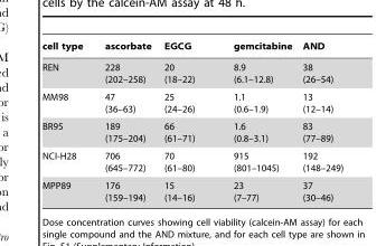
<table><thead><tr><td>cell type</td><td>ascorbate</td><td>EGCG</td><td>gemcitabine</td><td>AND</td></tr></thead><tbody><tr><td>REN</td><td>228 (202–258)</td><td>20 (18–22)</td><td>8.9 (6.1–12.8)</td><td>38 (26–54)</td></tr><tr><td>MM98</td><td>47 (36–63)</td><td>25 (24–26)</td><td>1.1 (0.6–1.9)</td><td>13 (12–14)</td></tr><tr><td>BR95</td><td>189 (175–204)</td><td>66 (61–71)</td><td>1.6 (0.8–3.1)</td><td>83 (77–89)</td></tr><tr><td>NCI-H28</td><td>706 (645–772)</td><td>70 (61–80)</td><td>915 (801–1045)</td><td>192 (148–249)</td></tr><tr><td>MPP89</td><td>176 (159–194)</td><td>15 (14–16)</td><td>23 (7–77)</td><td>37 (30–46)</td></tr></tbody></table>